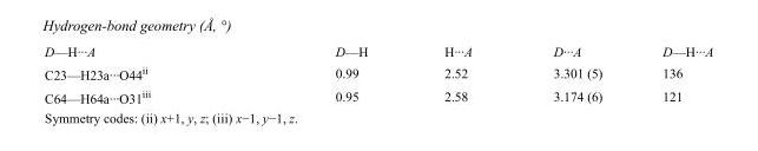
<table><tbody><tr><td>D—H···A</td><td>D—H</td><td>H···A</td><td>D···A</td><td>D—H···A</td></tr><tr><td>C23—H23a···O44<sup>ii</sup></td><td>0.99</td><td>2.52</td><td>3.301 (5)</td><td>136</td></tr><tr><td>C64—H64a···O31<sup>iii</sup></td><td>0.95</td><td>2.58</td><td>3.174 (6)</td><td>121</td></tr></tbody></table>